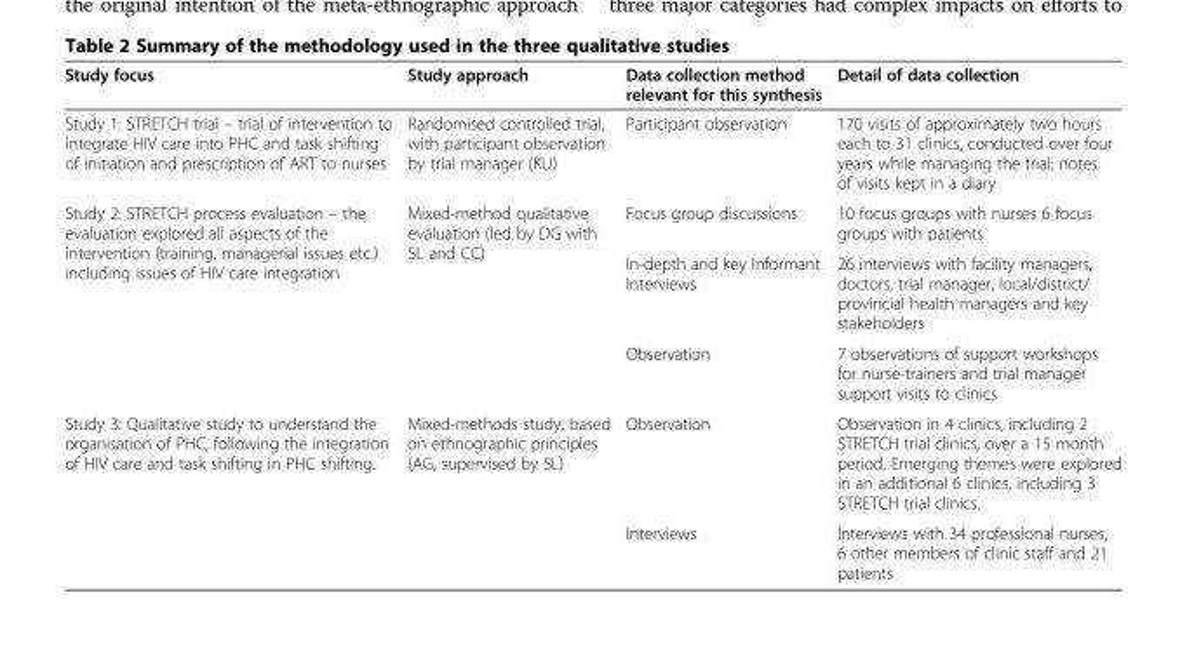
<table><thead><tr><td>Study focus</td><td>Study approach</td><td>Data collection method relevant for this synthesis</td><td>Detail of data collection</td></tr></thead><tbody><tr><td>Study 1: STRETCH trial – trial of intervention to integrate HIV care into PHC and task shifting of initiation and prescription of ART to nurses</td><td>Randomised controlled trial, with participant observation by trial manager (KU)</td><td>Participant observation</td><td>170 visits of approximately two hours each to 31 clinics, conducted over four years while managing the trial; notes of visits kept in a diary</td></tr><tr><td rowspan="3">Study 2: STRETCH process evaluation – the evaluation explored all aspects of the intervention (training, managerial issues etc.) including issues of HIV care integration</td><td rowspan="3">Mixed-method qualitative evaluation (led by DG with SL and CC)</td><td>Focus group discussions</td><td>10 focus groups with nurses 6 focus groups with patients</td></tr><tr><td>In-depth and key Informant Interviews</td><td>26 interviews with facility managers, doctors, trial manager, local/district/ provincial health managers and key stakeholders</td></tr><tr><td>Observation</td><td>7 observations of support workshops for nurse-trainers and trial manager support visits to clinics</td></tr><tr><td rowspan="2">Study 3: Qualitative study to understand the organisation of PHC, following the integration of HIV care and task shifting in PHC shifting.</td><td rowspan="2">Mixed-methods study, based on ethnographic principles (AG, supervised by SL)</td><td>Observation</td><td>Observation in 4 clinics, including 2 STRETCH trial clinics, over a 15 month period. Emerging themes were explored in an additional 6 clinics, including 3 STRETCH trial clinics.</td></tr><tr><td>Interviews</td><td>Interviews with 34 professional nurses, 6 other members of clinic staff and 21 patients</td></tr></tbody></table>